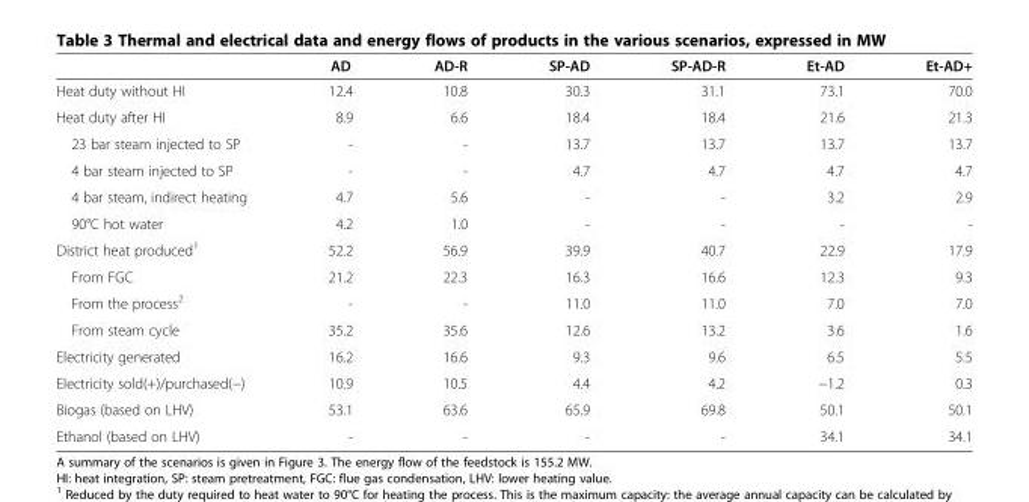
<table><thead><tr><td></td><td>AD</td><td>AD-R</td><td>SP-AD</td><td>SP-AD-R</td><td>Et-AD</td><td>Et-AD+</td></tr></thead><tbody><tr><td>Heat duty without HI</td><td>12.4</td><td>10.8</td><td>30.3</td><td>31.1</td><td>73.1</td><td>70.0</td></tr><tr><td>Heat duty after HI</td><td>8.9</td><td>6.6</td><td>18.4</td><td>18.4</td><td>21.6</td><td>21.3</td></tr><tr><td>23 bar steam injected to SP</td><td>-</td><td>-</td><td>13.7</td><td>13.7</td><td>13.7</td><td>13.7</td></tr><tr><td>4 bar steam injected to SP</td><td>-</td><td>-</td><td>4.7</td><td>4.7</td><td>4.7</td><td>4.7</td></tr><tr><td>4 bar steam, indirect heating</td><td>4.7</td><td>5.6</td><td>-</td><td>-</td><td>3.2</td><td>2.9</td></tr><tr><td>90°C hot water</td><td>4.2</td><td>1.0</td><td>-</td><td>-</td><td>-</td><td>-</td></tr><tr><td>District heat produced<sup>1</sup></td><td>52.2</td><td>56.9</td><td>39.9</td><td>40.7</td><td>22.9</td><td>17.9</td></tr><tr><td>From FGC</td><td>21.2</td><td>22.3</td><td>16.3</td><td>16.6</td><td>12.3</td><td>9.3</td></tr><tr><td>From the process<sup>2</sup></td><td>-</td><td>-</td><td>11.0</td><td>11.0</td><td>7.0</td><td>7.0</td></tr><tr><td>From steam cycle</td><td>35.2</td><td>35.6</td><td>12.6</td><td>13.2</td><td>3.6</td><td>1.6</td></tr><tr><td>Electricity generated</td><td>16.2</td><td>16.6</td><td>9.3</td><td>9.6</td><td>6.5</td><td>5.5</td></tr><tr><td>Electricity sold(+)/purchased(−)</td><td>10.9</td><td>10.5</td><td>4.4</td><td>4.2</td><td>−1.2</td><td>0.3</td></tr><tr><td>Biogas (based on LHV)</td><td>53.1</td><td>63.6</td><td>65.9</td><td>69.8</td><td>50.1</td><td>50.1</td></tr><tr><td>Ethanol (based on LHV)</td><td>-</td><td>-</td><td>-</td><td>-</td><td>34.1</td><td>34.1</td></tr></tbody></table>